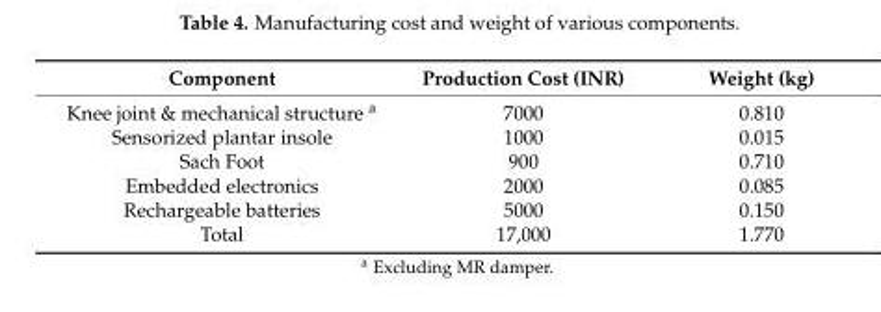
<table><thead><tr><td>Component</td><td>Production Cost (INR)</td><td>Weight (kg)</td></tr></thead><tbody><tr><td>Knee joint &amp; mechanical structure <sup>a</sup></td><td>7000</td><td>0.810</td></tr><tr><td>Sensorized plantar insole</td><td>1000</td><td>0.015</td></tr><tr><td>Sach Foot</td><td>900</td><td>0.710</td></tr><tr><td>Embedded electronics</td><td>2000</td><td>0.085</td></tr><tr><td>Rechargeable batteries</td><td>5000</td><td>0.150</td></tr><tr><td>Total</td><td>17,000</td><td>1.770</td></tr></tbody></table>